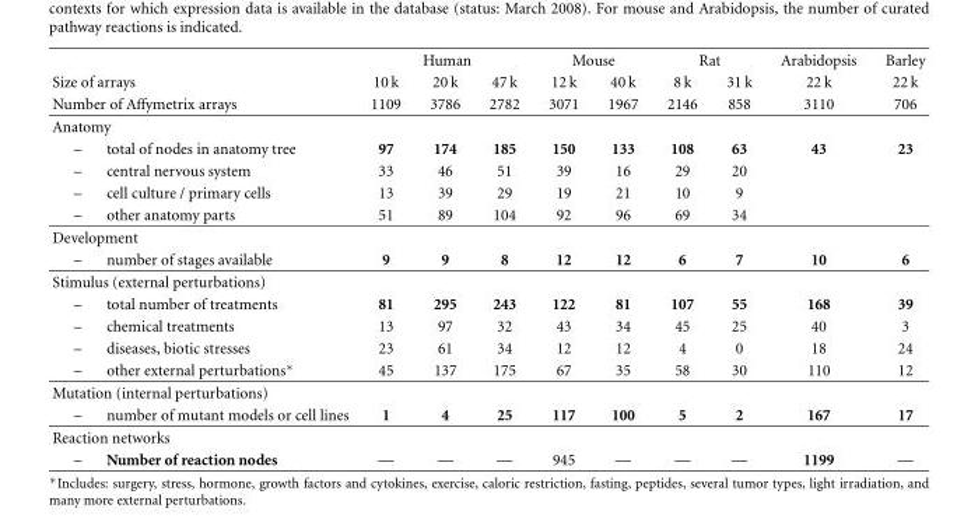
<table><thead><tr><td rowspan="3">Size of arrays Number of Affymetrix arrays</td><td colspan="3">Human</td><td colspan="2">Mouse</td><td colspan="2">Rat</td><td rowspan="3">Arabidopsis 22 k 3110</td><td rowspan="3">Barley 22 k 706</td></tr><tr><td rowspan="2">10 k 1109</td><td rowspan="2">20 k 3786</td><td rowspan="2">47 k 2782</td><td rowspan="2">12 k 3071</td><td rowspan="2">40 k 1967</td><td rowspan="2">8 k 2146</td><td rowspan="2">31 k 858</td></tr><tr></tr></thead><tbody><tr><td colspan="10">Anatomy</td></tr><tr><td>– total of nodes in anatomy tree</td><td>97</td><td>174</td><td>185</td><td>150</td><td>133</td><td>108</td><td>63</td><td>43</td><td>23</td></tr><tr><td>– central nervous system</td><td>33</td><td>46</td><td>51</td><td>39</td><td>16</td><td>29</td><td>20</td><td></td><td></td></tr><tr><td>– cell culture / primary cells</td><td>13</td><td>39</td><td>29</td><td>19</td><td>21</td><td>10</td><td>9</td><td></td><td></td></tr><tr><td>– other anatomy parts</td><td>51</td><td>89</td><td>104</td><td>92</td><td>96</td><td>69</td><td>34</td><td></td><td></td></tr><tr><td colspan="10">Development</td></tr><tr><td>– number of stages available</td><td>9</td><td>9</td><td>8</td><td>12</td><td>12</td><td>6</td><td>7</td><td>10</td><td>6</td></tr><tr><td colspan="10">Stimulus (external perturbations)</td></tr><tr><td>– total number of treatments</td><td>81</td><td>295</td><td>243</td><td>122</td><td>81</td><td>107</td><td>55</td><td>168</td><td>39</td></tr><tr><td>– chemical treatments</td><td>13</td><td>97</td><td>32</td><td>43</td><td>34</td><td>45</td><td>25</td><td>40</td><td>3</td></tr><tr><td>– diseases, biotic stresses</td><td>23</td><td>61</td><td>34</td><td>12</td><td>12</td><td>4</td><td>0</td><td>18</td><td>24</td></tr><tr><td>– other external perturbations∗</td><td>45</td><td>137</td><td>175</td><td>67</td><td>35</td><td>58</td><td>30</td><td>110</td><td>12</td></tr><tr><td colspan="10">Mutation (internal perturbations)</td></tr><tr><td>– number of mutant models or cell lines</td><td>1</td><td>4</td><td>25</td><td>117</td><td>100</td><td>5</td><td>2</td><td>167</td><td>17</td></tr><tr><td colspan="10">Reaction networks</td></tr><tr><td>– Number of reaction nodes</td><td>—</td><td>—</td><td>—</td><td>945</td><td>—</td><td>—</td><td>—</td><td>1199</td><td>—</td></tr></tbody></table>